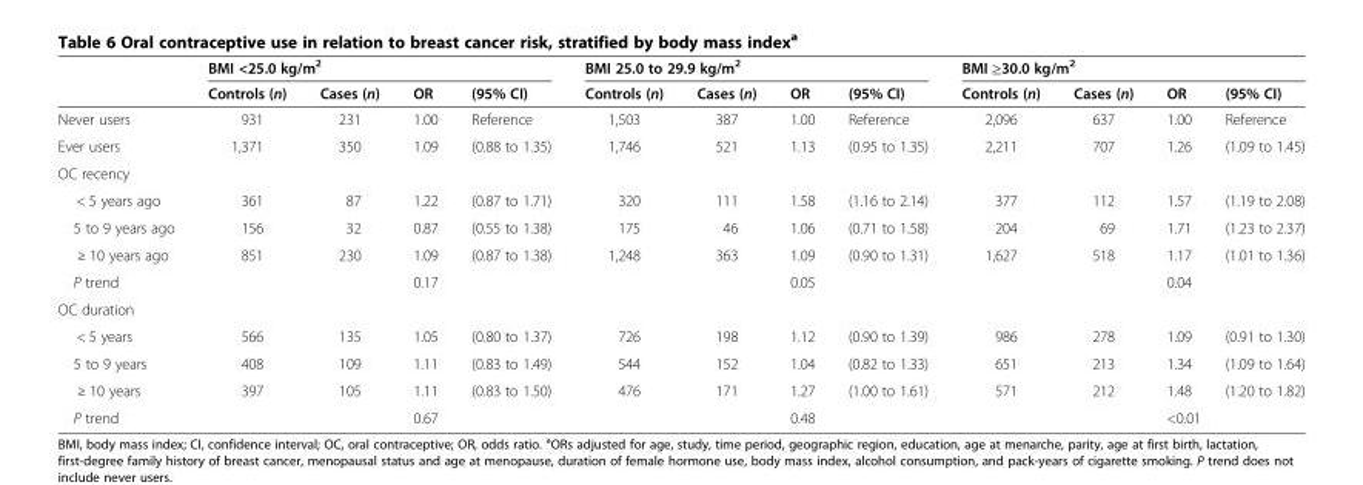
<table><thead><tr><td rowspan="2"></td><td colspan="4">BMI &lt;25.0 kg/m<sup>2</sup></td><td colspan="4">BMI 25.0 to 29.9 kg/m<sup>2</sup></td><td colspan="4">BMI ≥30.0 kg/m<sup>2</sup></td></tr><tr><td>Controls (n)</td><td>Cases (n)</td><td>OR</td><td>(95% CI)</td><td>Controls (n)</td><td>Cases (n)</td><td>OR</td><td>(95% CI)</td><td>Controls (n)</td><td>Cases (n)</td><td>OR</td><td>(95% CI)</td></tr></thead><tbody><tr><td>Never users</td><td>931</td><td>231</td><td>1.00</td><td>Reference</td><td>1,503</td><td>387</td><td>1.00</td><td>Reference</td><td>2,096</td><td>637</td><td>1.00</td><td>Reference</td></tr><tr><td>Ever users</td><td>1,371</td><td>350</td><td>1.09</td><td>(0.88 to 1.35)</td><td>1,746</td><td>521</td><td>1.13</td><td>(0.95 to 1.35)</td><td>2,211</td><td>707</td><td>1.26</td><td>(1.09 to 1.45)</td></tr><tr><td colspan="13">OC recency</td></tr><tr><td>&lt; 5 years ago</td><td>361</td><td>87</td><td>1.22</td><td>(0.87 to 1.71)</td><td>320</td><td>111</td><td>1.58</td><td>(1.16 to 2.14)</td><td>377</td><td>112</td><td>1.57</td><td>(1.19 to 2.08)</td></tr><tr><td>5 to 9 years ago</td><td>156</td><td>32</td><td>0.87</td><td>(0.55 to 1.38)</td><td>175</td><td>46</td><td>1.06</td><td>(0.71 to 1.58)</td><td>204</td><td>69</td><td>1.71</td><td>(1.23 to 2.37)</td></tr><tr><td>≥ 10 years ago</td><td>851</td><td>230</td><td>1.09</td><td>(0.87 to 1.38)</td><td>1,248</td><td>363</td><td>1.09</td><td>(0.90 to 1.31)</td><td>1,627</td><td>518</td><td>1.17</td><td>(1.01 to 1.36)</td></tr><tr><td>P trend</td><td></td><td></td><td colspan="2">0.17</td><td></td><td></td><td colspan="2">0.05</td><td></td><td></td><td colspan="2">0.04</td></tr><tr><td colspan="13">OC duration</td></tr><tr><td>&lt; 5 years</td><td>566</td><td>135</td><td>1.05</td><td>(0.80 to 1.37)</td><td>726</td><td>198</td><td>1.12</td><td>(0.90 to 1.39)</td><td>986</td><td>278</td><td>1.09</td><td>(0.91 to 1.30)</td></tr><tr><td>5 to 9 years</td><td>408</td><td>109</td><td>1.11</td><td>(0.83 to 1.49)</td><td>544</td><td>152</td><td>1.04</td><td>(0.82 to 1.33)</td><td>651</td><td>213</td><td>1.34</td><td>(1.09 to 1.64)</td></tr><tr><td>≥ 10 years</td><td>397</td><td>105</td><td>1.11</td><td>(0.83 to 1.50)</td><td>476</td><td>171</td><td>1.27</td><td>(1.00 to 1.61)</td><td>571</td><td>212</td><td>1.48</td><td>(1.20 to 1.82)</td></tr><tr><td>P trend</td><td></td><td></td><td colspan="2">0.67</td><td></td><td></td><td colspan="2">0.48</td><td></td><td></td><td colspan="2">&lt;0.01</td></tr></tbody></table>